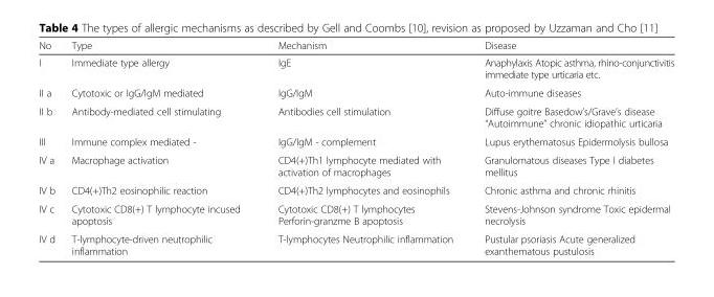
<table><thead><tr><td>No</td><td>Type</td><td>Mechanism</td><td>Disease</td></tr></thead><tbody><tr><td>I</td><td>Immediate type allergy</td><td>IgE</td><td>Anaphylaxis Atopic asthma, rhino-conjunctivitis immediate type urticaria etc.</td></tr><tr><td>II a</td><td>Cytotoxic or IgG/IgM mediated</td><td>IgG/IgM</td><td>Auto-immune diseases</td></tr><tr><td>II b</td><td>Antibody-mediated cell stimulating</td><td>Antibodies cell stimulation</td><td>Diffuse goitre Basedow’s/Grave’s disease “Autoimmune” chronic idiopathic urticaria</td></tr><tr><td>III</td><td>Immune complex mediated -</td><td>IgG/IgM - complement</td><td>Lupus erythematosus Epidermolysis bullosa</td></tr><tr><td>IV a</td><td>Macrophage activation</td><td>CD4(+)Th1 lymphocyte mediated with activation of macrophages</td><td>Granulomatous diseases Type I diabetes mellitus</td></tr><tr><td>IV b</td><td>CD4(+)Th2 eosinophilic reaction</td><td>CD4(+)Th2 lymphocytes and eosinophils</td><td>Chronic asthma and chronic rhinitis</td></tr><tr><td>IV c</td><td>Cytotoxic CD8(+) T lymphocyte incused apoptosis</td><td>Cytotoxic CD8(+) T lymphocytes Perforin-granzme B apoptosis</td><td>Stevens-Johnson syndrome Toxic epidermal necrolysis</td></tr><tr><td>IV d</td><td>T-lymphocyte-driven neutrophilic inflammation</td><td>T-lymphocytes Neutrophilic inflammation</td><td>Pustular psoriasis Acute generalized exanthematous pustulosis</td></tr></tbody></table>